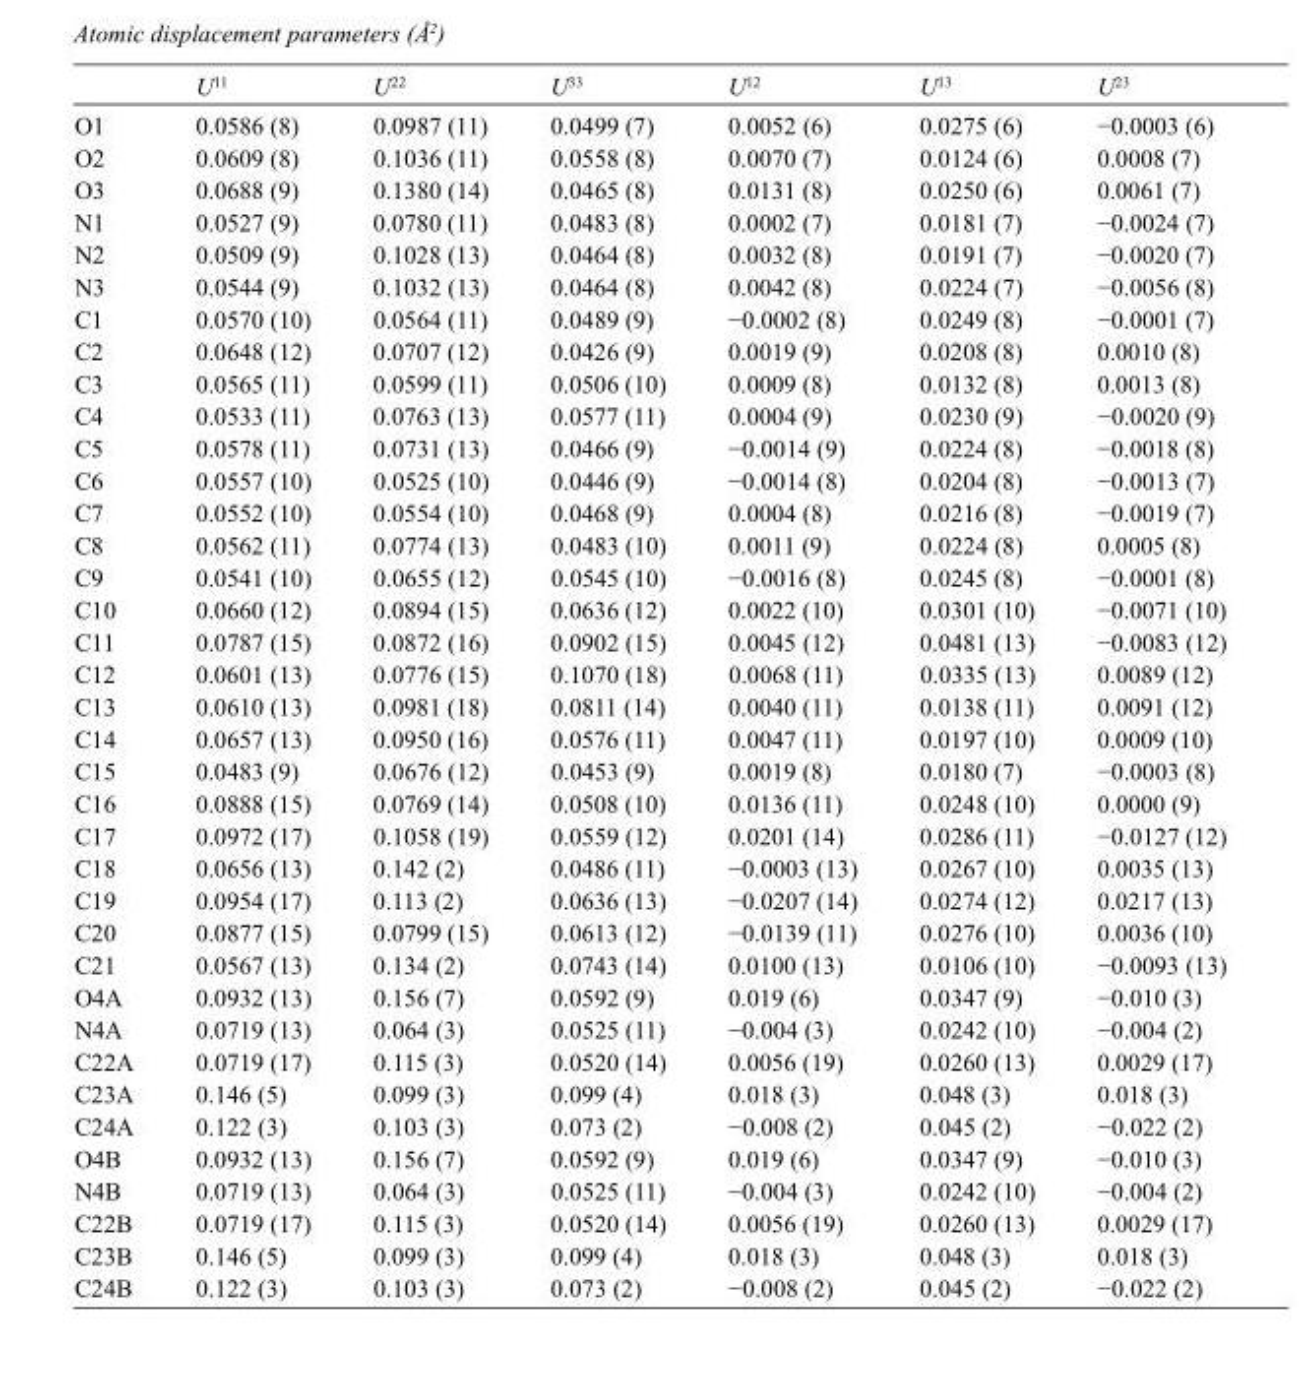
<table><thead><tr><td></td><td>U<sup>11</sup></td><td>U<sup>22</sup></td><td>U<sup>33</sup></td><td>U<sup>12</sup></td><td>U<sup>13</sup></td><td>U<sup>23</sup></td></tr></thead><tbody><tr><td>O1</td><td>0.0586 (8)</td><td>0.0987 (11)</td><td>0.0499 (7)</td><td>0.0052 (6)</td><td>0.0275 (6)</td><td>−0.0003 (6)</td></tr><tr><td>O2</td><td>0.0609 (8)</td><td>0.1036 (11)</td><td>0.0558 (8)</td><td>0.0070 (7)</td><td>0.0124 (6)</td><td>0.0008 (7)</td></tr><tr><td>O3</td><td>0.0688 (9)</td><td>0.1380 (14)</td><td>0.0465 (8)</td><td>0.0131 (8)</td><td>0.0250 (6)</td><td>0.0061 (7)</td></tr><tr><td>N1</td><td>0.0527 (9)</td><td>0.0780 (11)</td><td>0.0483 (8)</td><td>0.0002 (7)</td><td>0.0181 (7)</td><td>−0.0024 (7)</td></tr><tr><td>N2</td><td>0.0509 (9)</td><td>0.1028 (13)</td><td>0.0464 (8)</td><td>0.0032 (8)</td><td>0.0191 (7)</td><td>−0.0020 (7)</td></tr><tr><td>N3</td><td>0.0544 (9)</td><td>0.1032 (13)</td><td>0.0464 (8)</td><td>0.0042 (8)</td><td>0.0224 (7)</td><td>−0.0056 (8)</td></tr><tr><td>C1</td><td>0.0570 (10)</td><td>0.0564 (11)</td><td>0.0489 (9)</td><td>−0.0002 (8)</td><td>0.0249 (8)</td><td>−0.0001 (7)</td></tr><tr><td>C2</td><td>0.0648 (12)</td><td>0.0707 (12)</td><td>0.0426 (9)</td><td>0.0019 (9)</td><td>0.0208 (8)</td><td>0.0010 (8)</td></tr><tr><td>C3</td><td>0.0565 (11)</td><td>0.0599 (11)</td><td>0.0506 (10)</td><td>0.0009 (8)</td><td>0.0132 (8)</td><td>0.0013 (8)</td></tr><tr><td>C4</td><td>0.0533 (11)</td><td>0.0763 (13)</td><td>0.0577 (11)</td><td>0.0004 (9)</td><td>0.0230 (9)</td><td>−0.0020 (9)</td></tr><tr><td>C5</td><td>0.0578 (11)</td><td>0.0731 (13)</td><td>0.0466 (9)</td><td>−0.0014 (9)</td><td>0.0224 (8)</td><td>−0.0018 (8)</td></tr><tr><td>C6</td><td>0.0557 (10)</td><td>0.0525 (10)</td><td>0.0446 (9)</td><td>−0.0014 (8)</td><td>0.0204 (8)</td><td>−0.0013 (7)</td></tr><tr><td>C7</td><td>0.0552 (10)</td><td>0.0554 (10)</td><td>0.0468 (9)</td><td>0.0004 (8)</td><td>0.0216 (8)</td><td>−0.0019 (7)</td></tr><tr><td>C8</td><td>0.0562 (11)</td><td>0.0774 (13)</td><td>0.0483 (10)</td><td>0.0011 (9)</td><td>0.0224 (8)</td><td>0.0005 (8)</td></tr><tr><td>C9</td><td>0.0541 (10)</td><td>0.0655 (12)</td><td>0.0545 (10)</td><td>−0.0016 (8)</td><td>0.0245 (8)</td><td>−0.0001 (8)</td></tr><tr><td>C10</td><td>0.0660 (12)</td><td>0.0894 (15)</td><td>0.0636 (12)</td><td>0.0022 (10)</td><td>0.0301 (10)</td><td>−0.0071 (10)</td></tr><tr><td>C11</td><td>0.0787 (15)</td><td>0.0872 (16)</td><td>0.0902 (15)</td><td>0.0045 (12)</td><td>0.0481 (13)</td><td>−0.0083 (12)</td></tr><tr><td>C12</td><td>0.0601 (13)</td><td>0.0776 (15)</td><td>0.1070 (18)</td><td>0.0068 (11)</td><td>0.0335 (13)</td><td>0.0089 (12)</td></tr><tr><td>C13</td><td>0.0610 (13)</td><td>0.0981 (18)</td><td>0.0811 (14)</td><td>0.0040 (11)</td><td>0.0138 (11)</td><td>0.0091 (12)</td></tr><tr><td>C14</td><td>0.0657 (13)</td><td>0.0950 (16)</td><td>0.0576 (11)</td><td>0.0047 (11)</td><td>0.0197 (10)</td><td>0.0009 (10)</td></tr><tr><td>C15</td><td>0.0483 (9)</td><td>0.0676 (12)</td><td>0.0453 (9)</td><td>0.0019 (8)</td><td>0.0180 (7)</td><td>−0.0003 (8)</td></tr><tr><td>C16</td><td>0.0888 (15)</td><td>0.0769 (14)</td><td>0.0508 (10)</td><td>0.0136 (11)</td><td>0.0248 (10)</td><td>0.0000 (9)</td></tr><tr><td>C17</td><td>0.0972 (17)</td><td>0.1058 (19)</td><td>0.0559 (12)</td><td>0.0201 (14)</td><td>0.0286 (11)</td><td>−0.0127 (12)</td></tr><tr><td>C18</td><td>0.0656 (13)</td><td>0.142 (2)</td><td>0.0486 (11)</td><td>−0.0003 (13)</td><td>0.0267 (10)</td><td>0.0035 (13)</td></tr><tr><td>C19</td><td>0.0954 (17)</td><td>0.113 (2)</td><td>0.0636 (13)</td><td>−0.0207 (14)</td><td>0.0274 (12)</td><td>0.0217 (13)</td></tr><tr><td>C20</td><td>0.0877 (15)</td><td>0.0799 (15)</td><td>0.0613 (12)</td><td>−0.0139 (11)</td><td>0.0276 (10)</td><td>0.0036 (10)</td></tr><tr><td>C21</td><td>0.0567 (13)</td><td>0.134 (2)</td><td>0.0743 (14)</td><td>0.0100 (13)</td><td>0.0106 (10)</td><td>−0.0093 (13)</td></tr><tr><td>O4A</td><td>0.0932 (13)</td><td>0.156 (7)</td><td>0.0592 (9)</td><td>0.019 (6)</td><td>0.0347 (9)</td><td>−0.010 (3)</td></tr><tr><td>N4A</td><td>0.0719 (13)</td><td>0.064 (3)</td><td>0.0525 (11)</td><td>−0.004 (3)</td><td>0.0242 (10)</td><td>−0.004 (2)</td></tr><tr><td>C22A</td><td>0.0719 (17)</td><td>0.115 (3)</td><td>0.0520 (14)</td><td>0.0056 (19)</td><td>0.0260 (13)</td><td>0.0029 (17)</td></tr><tr><td>C23A</td><td>0.146 (5)</td><td>0.099 (3)</td><td>0.099 (4)</td><td>0.018 (3)</td><td>0.048 (3)</td><td>0.018 (3)</td></tr><tr><td>C24A</td><td>0.122 (3)</td><td>0.103 (3)</td><td>0.073 (2)</td><td>−0.008 (2)</td><td>0.045 (2)</td><td>−0.022 (2)</td></tr><tr><td>O4B</td><td>0.0932 (13)</td><td>0.156 (7)</td><td>0.0592 (9)</td><td>0.019 (6)</td><td>0.0347 (9)</td><td>−0.010 (3)</td></tr><tr><td>N4B</td><td>0.0719 (13)</td><td>0.064 (3)</td><td>0.0525 (11)</td><td>−0.004 (3)</td><td>0.0242 (10)</td><td>−0.004 (2)</td></tr><tr><td>C22B</td><td>0.0719 (17)</td><td>0.115 (3)</td><td>0.0520 (14)</td><td>0.0056 (19)</td><td>0.0260 (13)</td><td>0.0029 (17)</td></tr><tr><td>C23B</td><td>0.146 (5)</td><td>0.099 (3)</td><td>0.099 (4)</td><td>0.018 (3)</td><td>0.048 (3)</td><td>0.018 (3)</td></tr><tr><td>C24B</td><td>0.122 (3)</td><td>0.103 (3)</td><td>0.073 (2)</td><td>−0.008 (2)</td><td>0.045 (2)</td><td>−0.022 (2)</td></tr></tbody></table>